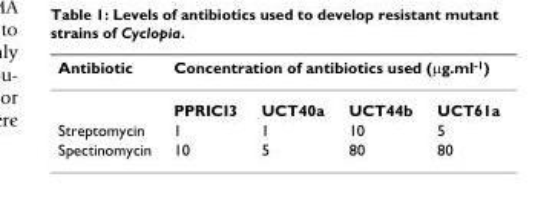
<table><thead><tr><td rowspan="2">Antibiotic</td><td colspan="4">Concentration of antibiotics used (μg.ml<sup>-1</sup>)</td></tr><tr><td>PPRICI3</td><td>UCT40a</td><td>UCT44b</td><td>UCT61a</td></tr></thead><tbody><tr><td>Streptomycin</td><td>1</td><td>1</td><td>10</td><td>5</td></tr><tr><td>Spectinomycin</td><td>10</td><td>5</td><td>80</td><td>80</td></tr></tbody></table>